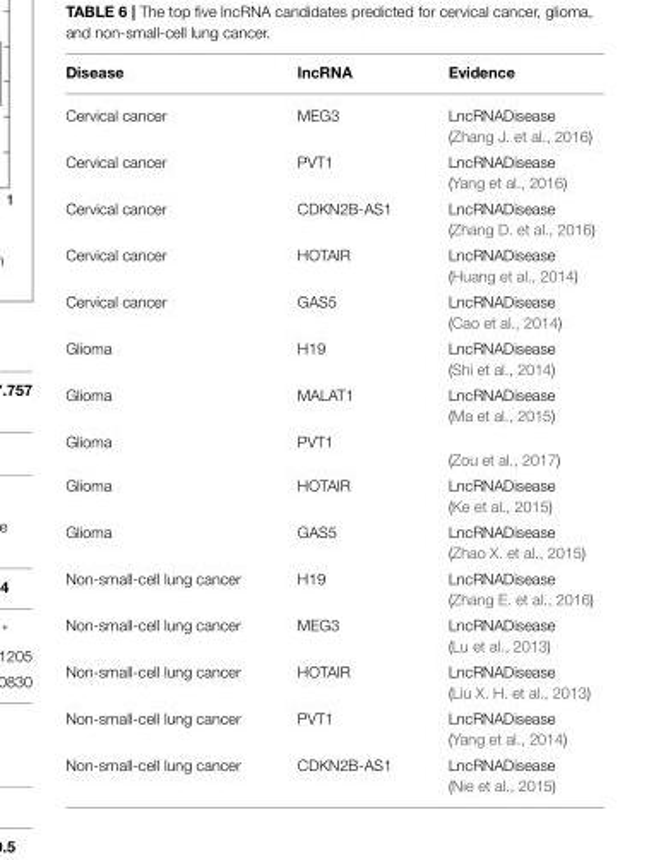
<table><thead><tr><td>Disease</td><td>lncRNA</td><td>Evidence</td></tr></thead><tbody><tr><td>Cervical cancer</td><td>MEG3</td><td>LncRNADisease (Zhang J. et al., 2016)</td></tr><tr><td>Cervical cancer</td><td>PVT1</td><td>LncRNADisease (Yang et al., 2016)</td></tr><tr><td>Cervical cancer</td><td>CDKN2B-AS1</td><td>LncRNADisease (Zhang D. et al., 2016)</td></tr><tr><td>Cervical cancer</td><td>HOTAIR</td><td>LncRNADisease (Huang et al., 2014)</td></tr><tr><td>Cervical cancer</td><td>GAS5</td><td>LncRNADisease (Cao et al., 2014)</td></tr><tr><td>Glioma</td><td>H19</td><td>LncRNADisease (Shi et al., 2014)</td></tr><tr><td>Glioma</td><td>MALAT1</td><td>LncRNADisease (Ma et al., 2015)</td></tr><tr><td>Glioma</td><td>PVT1</td><td>(Zou et al., 2017)</td></tr><tr><td>Glioma</td><td>HOTAIR</td><td>LncRNADisease (Ke et al., 2015)</td></tr><tr><td>Glioma</td><td>GAS5</td><td>LncRNADisease (Zhao X. et al., 2015)</td></tr><tr><td>Non-small-cell lung cancer</td><td>H19</td><td>LncRNADisease (Zhang E. et al., 2016)</td></tr><tr><td>Non-small-cell lung cancer</td><td>MEG3</td><td>LncRNADisease (Lu et al., 2013)</td></tr><tr><td>Non-small-cell lung cancer</td><td>HOTAIR</td><td>LncRNADisease (Liu X. H. et al., 2013)</td></tr><tr><td>Non-small-cell lung cancer</td><td>PVT1</td><td>LncRNADisease (Yang et al., 2014)</td></tr><tr><td>Non-small-cell lung cancer</td><td>CDKN2B-AS1</td><td>LncRNADisease (Nie et al., 2015)</td></tr></tbody></table>